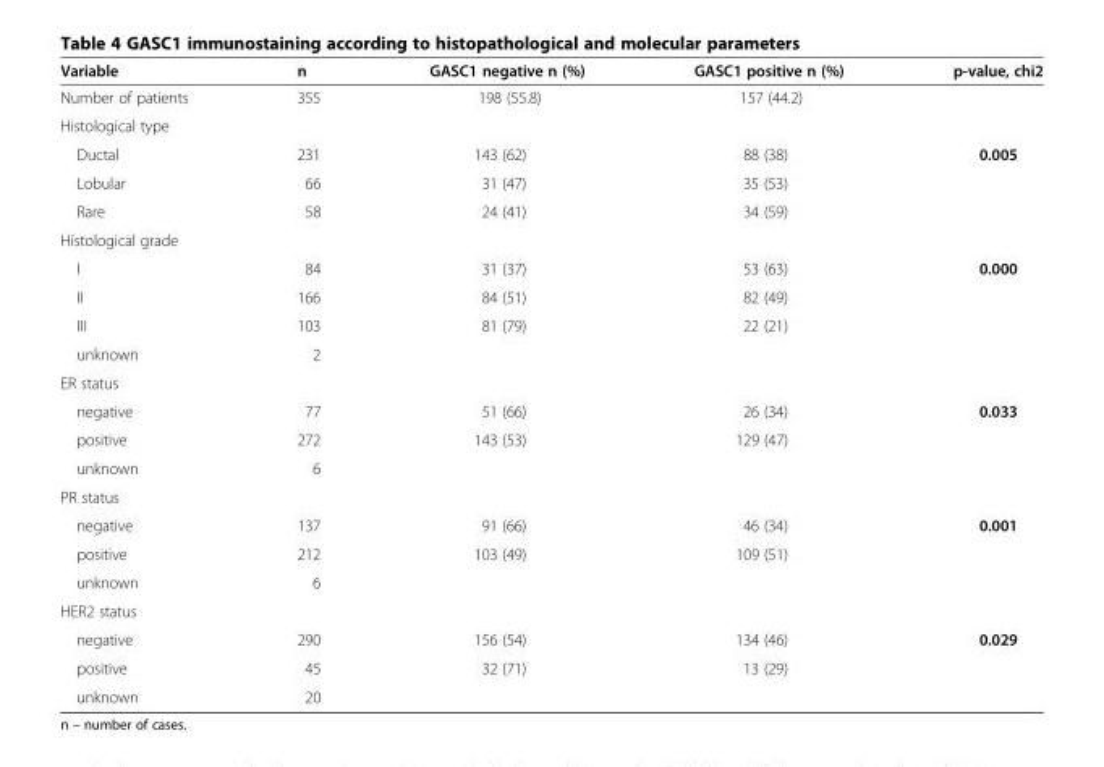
<table><thead><tr><td>Variable</td><td>n</td><td>GASC1 negative n (%)</td><td>GASC1 positive n (%)</td><td>p-value, chi2</td></tr></thead><tbody><tr><td>Number of patients</td><td>355</td><td>198 (55.8)</td><td>157 (44.2)</td><td></td></tr><tr><td colspan="5">Histological type</td></tr><tr><td>Ductal</td><td>231</td><td>143 (62)</td><td>88 (38)</td><td>0.005</td></tr><tr><td>Lobular</td><td>66</td><td>31 (47)</td><td>35 (53)</td><td></td></tr><tr><td>Rare</td><td>58</td><td>24 (41)</td><td>34 (59)</td><td></td></tr><tr><td colspan="5">Histological grade</td></tr><tr><td>I</td><td>84</td><td>31 (37)</td><td>53 (63)</td><td>0.000</td></tr><tr><td>II</td><td>166</td><td>84 (51)</td><td>82 (49)</td><td></td></tr><tr><td>III</td><td>103</td><td>81 (79)</td><td>22 (21)</td><td></td></tr><tr><td>unknown</td><td>2</td><td></td><td></td><td></td></tr><tr><td colspan="5">ER status</td></tr><tr><td>negative</td><td>77</td><td>51 (66)</td><td>26 (34)</td><td>0.033</td></tr><tr><td>positive</td><td>272</td><td>143 (53)</td><td>129 (47)</td><td></td></tr><tr><td>unknown</td><td>6</td><td></td><td></td><td></td></tr><tr><td colspan="5">PR status</td></tr><tr><td>negative</td><td>137</td><td>91 (66)</td><td>46 (34)</td><td>0.001</td></tr><tr><td>positive</td><td>212</td><td>103 (49)</td><td>109 (51)</td><td></td></tr><tr><td>unknown</td><td>6</td><td></td><td></td><td></td></tr><tr><td colspan="5">HER2 status</td></tr><tr><td>negative</td><td>290</td><td>156 (54)</td><td>134 (46)</td><td>0.029</td></tr><tr><td>positive</td><td>45</td><td>32 (71)</td><td>13 (29)</td><td></td></tr><tr><td>unknown</td><td>20</td><td></td><td></td><td></td></tr></tbody></table>